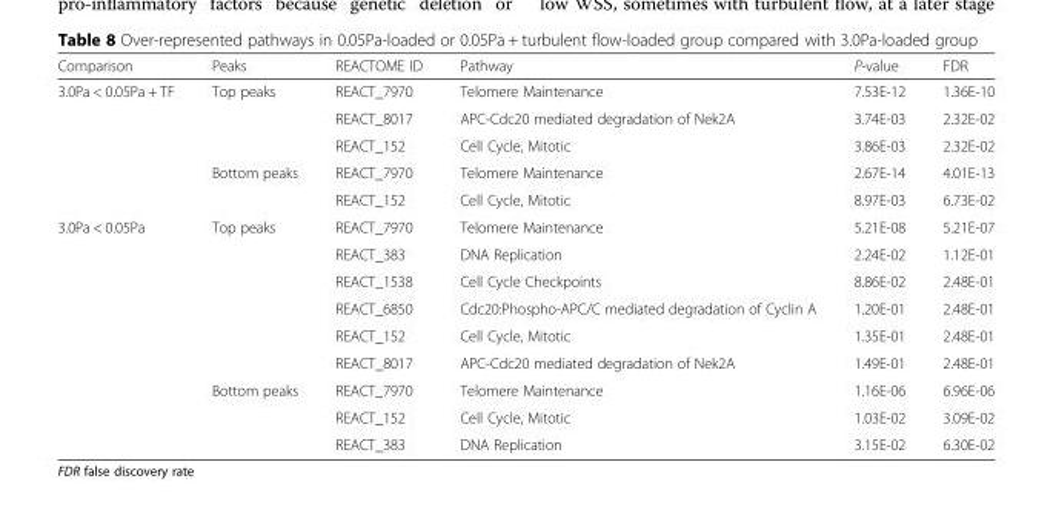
<table><thead><tr><td>Comparison</td><td>Peaks</td><td>REACTOME ID</td><td>Pathway</td><td>P-value</td><td>FDR</td></tr></thead><tbody><tr><td rowspan="5">3.0Pa &lt; 0.05Pa + TF</td><td>Top peaks</td><td>REACT_7970</td><td>Telomere Maintenance</td><td>7.53E-12</td><td>1.36E-10</td></tr><tr><td></td><td>REACT_8017</td><td>APC-Cdc20 mediated degradation of Nek2A</td><td>3.74E-03</td><td>2.32E-02</td></tr><tr><td></td><td>REACT_152</td><td>Cell Cycle, Mitotic</td><td>3.86E-03</td><td>2.32E-02</td></tr><tr><td>Bottom peaks</td><td>REACT_7970</td><td>Telomere Maintenance</td><td>2.67E-14</td><td>4.01E-13</td></tr><tr><td></td><td>REACT_152</td><td>Cell Cycle, Mitotic</td><td>8.97E-03</td><td>6.73E-02</td></tr><tr><td rowspan="9">3.0Pa &lt; 0.05Pa</td><td>Top peaks</td><td>REACT_7970</td><td>Telomere Maintenance</td><td>5.21E-08</td><td>5.21E-07</td></tr><tr><td></td><td>REACT_383</td><td>DNA Replication</td><td>2.24E-02</td><td>1.12E-01</td></tr><tr><td></td><td>REACT_1538</td><td>Cell Cycle Checkpoints</td><td>8.86E-02</td><td>2.48E-01</td></tr><tr><td></td><td>REACT_6850</td><td>Cdc20:Phospho-APC/C mediated degradation of Cyclin A</td><td>1.20E-01</td><td>2.48E-01</td></tr><tr><td></td><td>REACT_152</td><td>Cell Cycle, Mitotic</td><td>1.35E-01</td><td>2.48E-01</td></tr><tr><td></td><td>REACT_8017</td><td>APC-Cdc20 mediated degradation of Nek2A</td><td>1.49E-01</td><td>2.48E-01</td></tr><tr><td>Bottom peaks</td><td>REACT_7970</td><td>Telomere Maintenance</td><td>1.16E-06</td><td>6.96E-06</td></tr><tr><td></td><td>REACT_152</td><td>Cell Cycle, Mitotic</td><td>1.03E-02</td><td>3.09E-02</td></tr><tr><td></td><td>REACT_383</td><td>DNA Replication</td><td>3.15E-02</td><td>6.30E-02</td></tr></tbody></table>